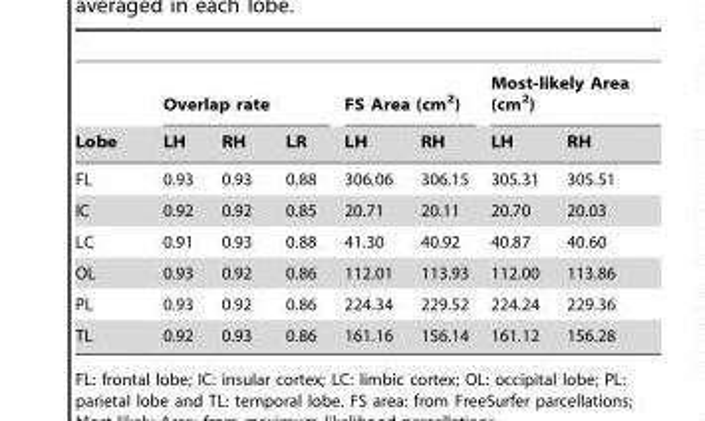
<table><thead><tr><td rowspan="2">Lobe</td><td colspan="3">Overlap rate</td><td colspan="2">FS Area (cm<sup>2</sup>)</td><td colspan="2">Most-likely Area (cm<sup>2</sup>)</td></tr><tr><td>LH</td><td>RH</td><td>LR</td><td>LH</td><td>RH</td><td>LH</td><td>RH</td></tr></thead><tbody><tr><td>FL</td><td>0.93</td><td>0.93</td><td>0.88</td><td>306.06</td><td>306.15</td><td>305.31</td><td>305.51</td></tr><tr><td>IC</td><td>0.92</td><td>0.92</td><td>0.85</td><td>20.71</td><td>20.11</td><td>20.70</td><td>20.03</td></tr><tr><td>LC</td><td>0.91</td><td>0.93</td><td>0.88</td><td>41.30</td><td>40.92</td><td>40.87</td><td>40.60</td></tr><tr><td>OL</td><td>0.93</td><td>0.92</td><td>0.86</td><td>112.01</td><td>113.93</td><td>112.00</td><td>113.86</td></tr><tr><td>PL</td><td>0.93</td><td>0.92</td><td>0.86</td><td>224.34</td><td>229.52</td><td>224.24</td><td>229.36</td></tr><tr><td>TL</td><td>0.92</td><td>0.93</td><td>0.86</td><td>161.16</td><td>156.14</td><td>161.12</td><td>156.28</td></tr></tbody></table>